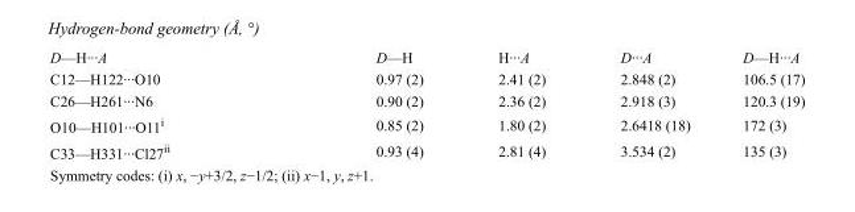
<table><tbody><tr><td>D—H···A</td><td>D—H</td><td>H···A</td><td>D···A</td><td>D—H···A</td></tr><tr><td>C12—H122···O10</td><td>0.97 (2)</td><td>2.41 (2)</td><td>2.848 (2)</td><td>106.5 (17)</td></tr><tr><td>C26—H261···N6</td><td>0.90 (2)</td><td>2.36 (2)</td><td>2.918 (3)</td><td>120.3 (19)</td></tr><tr><td>O10—H101···O11<sup>i</sup></td><td>0.85 (2)</td><td>1.80 (2)</td><td>2.6418 (18)</td><td>172 (3)</td></tr><tr><td>C33—H331···Cl27<sup>ii</sup></td><td>0.93 (4)</td><td>2.81 (4)</td><td>3.534 (2)</td><td>135 (3)</td></tr></tbody></table>